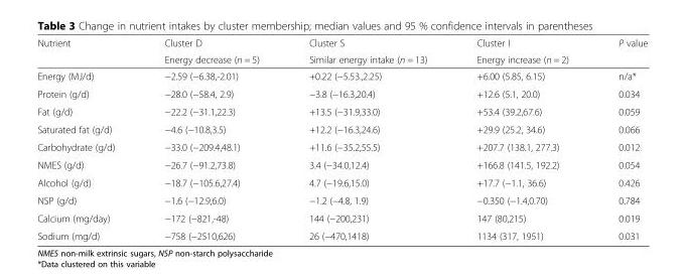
<table><thead><tr><td rowspan="2">Nutrient</td><td rowspan="2">Cluster D Energy decrease (n = 5)</td><td rowspan="2">Cluster S Similar energy intake (n = 13)</td><td rowspan="2">Cluster I Energy increase (n = 2)</td><td rowspan="2">P value</td></tr><tr></tr></thead><tbody><tr><td>Energy (MJ/d)</td><td>−2.59 (−6.38,-2.01)</td><td>+0.22 (−5.53.,2.25)</td><td>+6.00 (5.85, 6.15)</td><td>n/a*</td></tr><tr><td>Protein (g/d)</td><td>−28.0 (−58.4, 2.9)</td><td>−3.8 (−16.3,20.4)</td><td>+12.6 (5.1, 20.0)</td><td>0.034</td></tr><tr><td>Fat (g/d)</td><td>−22.2 (−31.1,22.3)</td><td>+13.5 (−31.9,33.0)</td><td>+53.4 (39.2,67.6)</td><td>0.059</td></tr><tr><td>Saturated fat (g/d)</td><td>−4.6 (−10.8,3.5)</td><td>+12.2 (−16.3,24.6)</td><td>+29.9 (25.2, 34.6)</td><td>0.066</td></tr><tr><td>Carbohydrate (g/d)</td><td>−33.0 (−209.4,48.1)</td><td>+11.6 (−35.2,55.5)</td><td>+207.7 (138.1, 277.3)</td><td>0.012</td></tr><tr><td>NMES (g/d)</td><td>−26.7 (−91.2,73.8)</td><td>3.4 (−34.0,12.4)</td><td>+166.8 (141.5, 192.2)</td><td>0.054</td></tr><tr><td>Alcohol (g/d)</td><td>−18.7 (−105.6,27.4)</td><td>4.7 (−19.6,15.0)</td><td>+17.7 (−1.1, 36.6)</td><td>0.426</td></tr><tr><td>NSP (g/d)</td><td>−1.6 (−12.9,6.0)</td><td>−1.2 (−4.8, 1.9)</td><td>−0.350 (−1.4,0.70)</td><td>0.784</td></tr><tr><td>Calcium (mg/day)</td><td>−172 (−821,-48)</td><td>144 (−200,231)</td><td>147 (80,215)</td><td>0.019</td></tr><tr><td>Sodium (mg/d)</td><td>−758 (−2510,626)</td><td>26 (−470,1418)</td><td>1134 (317, 1951)</td><td>0.031</td></tr></tbody></table>